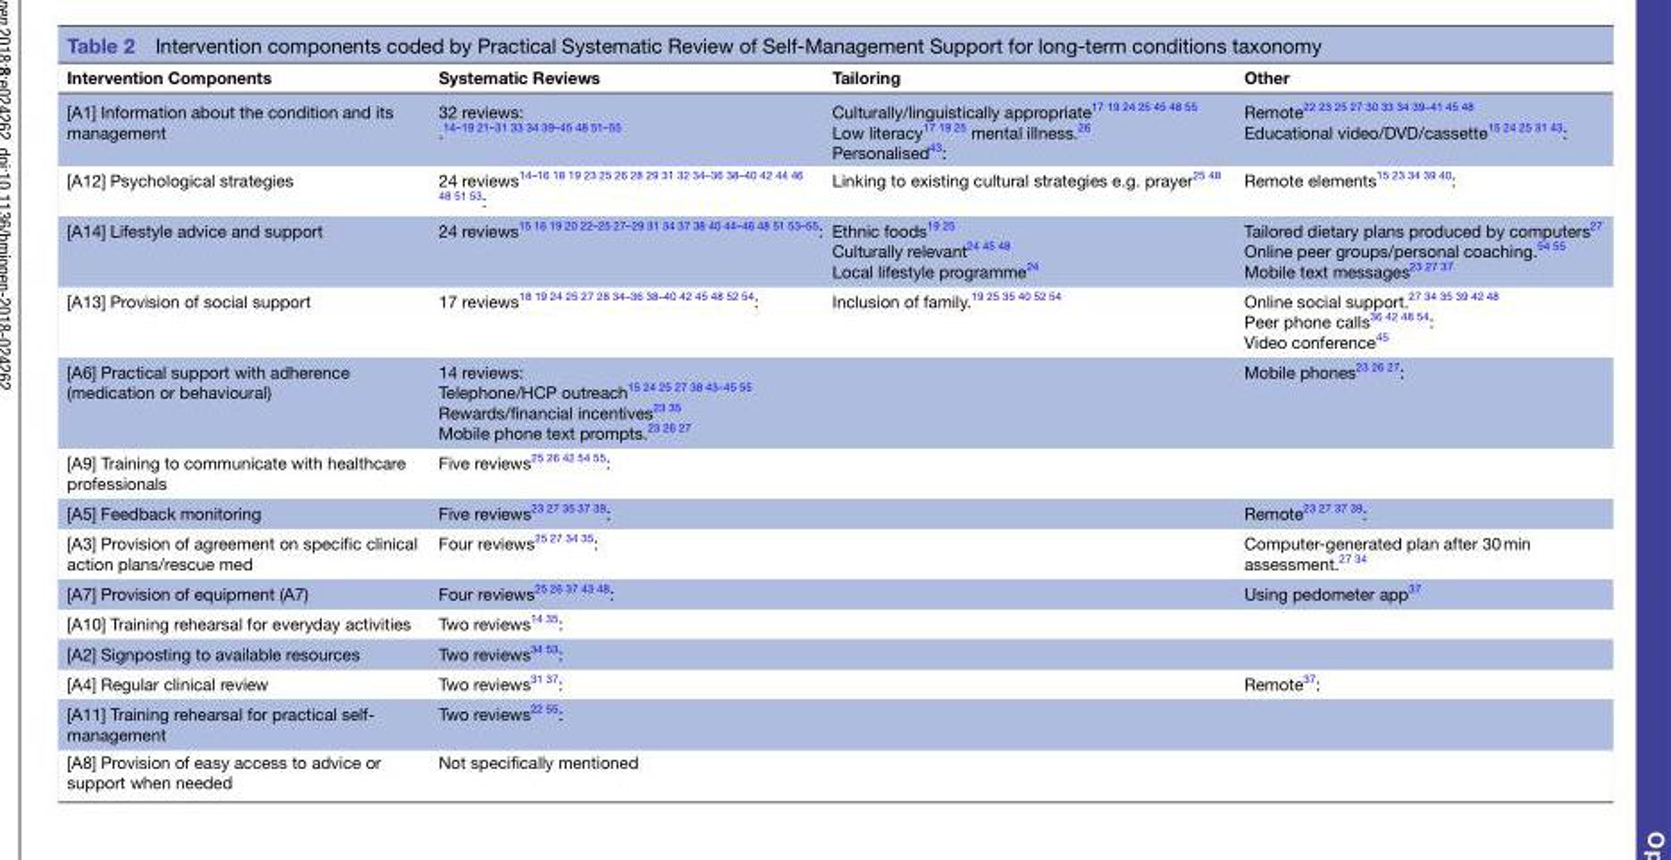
<table><thead><tr><td>Intervention Components</td><td>Systematic Reviews</td><td>Tailoring</td><td>Other</td></tr></thead><tbody><tr><td>[A1] Information about the condition and its management</td><td>32 reviews: .<sup>14–19 21–31 33 34 39–45 48 51–55</sup></td><td>Culturally/linguistically appropriate<sup>17 19 24 25 45 48 55</sup> Low literacy<sup>17 19 25</sup> mental illness.<sup>26</sup> Personalised<sup>43</sup>:</td><td>Remote<sup>22 23 25 27 30 33 34 39–41 45 48</sup> Educational video/DVD/cassette<sup>15 24 25 31 43</sup>:</td></tr><tr><td>[A12] Psychological strategies</td><td>24 reviews<sup>14–16 18 19 23 25 26 28 29 31 32 34–36 38–40 42 44 46 48 51 53</sup>:</td><td>Linking to existing cultural strategies e.g. prayer<sup>25 48</sup></td><td>Remote elements<sup>15 23 34 39 40</sup>:</td></tr><tr><td>[A14] Lifestyle advice and support</td><td>24 reviews<sup>15 16 19 20 22–25 27–29 31 34 37 38 40 44–46 48 51 53–55</sup>:</td><td>Ethnic foods<sup>19 25</sup> Culturally relevant<sup>24 45 48</sup> Local lifestyle programme<sup>24</sup></td><td>Tailored dietary plans produced by computers<sup>27</sup> Online peer groups/personal coaching.<sup>54 55</sup> Mobile text messages<sup>23 27 37</sup></td></tr><tr><td>[A13] Provision of social support</td><td>17 reviews<sup>18 19 24 25 27 28 34–36 38–40 42 45 48 52 54</sup>:</td><td>Inclusion of family.<sup>19 25 35 40 52 54</sup></td><td>Online social support.<sup>27 34 35 39 42 48</sup> Peer phone calls<sup>36 42 48 54</sup>: Video conference<sup>45</sup></td></tr><tr><td>[A6] Practical support with adherence (medication or behavioural)</td><td>14 reviews: Telephone/HCP outreach<sup>15 24 25 27 38 43–45 55</sup> Rewards/financial incentives<sup>23 35</sup> Mobile phone text prompts.<sup>23 26 27</sup></td><td></td><td>Mobile phones<sup>23 26 27</sup>:</td></tr><tr><td>[A9] Training to communicate with healthcare professionals</td><td>Five reviews<sup>25 26 42 54 55</sup>:</td><td></td><td></td></tr><tr><td>[A5] Feedback monitoring</td><td>Five reviews<sup>23 27 35 37 39</sup>:</td><td></td><td>Remote<sup>23 27 37 39</sup>:</td></tr><tr><td>[A3] Provision of agreement on specific clinical action plans/rescue med</td><td>Four reviews<sup>25 27 34 35</sup>:</td><td></td><td>Computer-generated plan after 30 min assessment.<sup>27 34</sup></td></tr><tr><td>[A7] Provision of equipment (A7)</td><td>Four reviews<sup>25 26 37 43 48</sup>:</td><td></td><td>Using pedometer app<sup>37</sup></td></tr><tr><td>[A10] Training rehearsal for everyday activities</td><td>Two reviews<sup>14 35</sup>:</td><td></td><td></td></tr><tr><td>[A2] Signposting to available resources</td><td>Two reviews<sup>34 53</sup>:</td><td></td><td></td></tr><tr><td>[A4] Regular clinical review</td><td>Two reviews<sup>31 37</sup>:</td><td></td><td>Remote<sup>37</sup>:</td></tr><tr><td>[A11] Training rehearsal for practical self- management</td><td>Two reviews<sup>22 55</sup>:</td><td></td><td></td></tr><tr><td>[A8] Provision of easy access to advice or support when needed</td><td>Not specifically mentioned</td><td></td><td></td></tr></tbody></table>